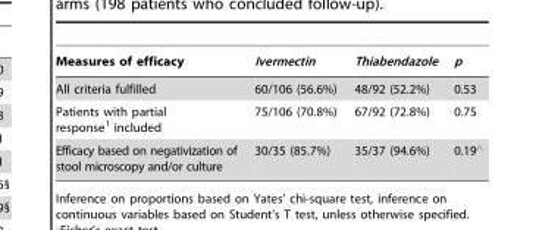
<table><thead><tr><td>Measures of efficacy</td><td>Ivermectin</td><td>Thiabendazole</td><td>p</td></tr></thead><tbody><tr><td>All criteria fulfilled</td><td>60/106 (56.6%)</td><td>48/92 (52.2%)</td><td>0.53</td></tr><tr><td>Patients with partial response<sup>1</sup> included</td><td>75/106 (70.8%)</td><td>67/92 (72.8%)</td><td>0.75</td></tr><tr><td>Efficacy based on negativization of stool microscopy and/or culture</td><td>30/35 (85.7%)</td><td>35/37 (94.6%)</td><td>0.19‘</td></tr></tbody></table>